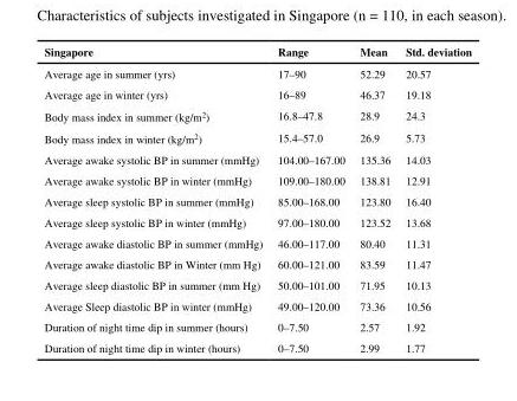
<table><thead><tr><td>Singapore</td><td>Range</td><td>Mean</td><td>Std. deviation</td></tr></thead><tbody><tr><td>Average age in summer (yrs)</td><td>17–90</td><td>52.29</td><td>20.57</td></tr><tr><td>Average age in winter (yrs)</td><td>16–89</td><td>46.37</td><td>19.18</td></tr><tr><td>Body mass index in summer (kg/m<sup>2</sup>)</td><td>16.8–47.8</td><td>28.9</td><td>24.3</td></tr><tr><td>Body mass index in winter (kg/m<sup>2</sup>)</td><td>15.4–57.0</td><td>26.9</td><td>5.73</td></tr><tr><td>Average awake systolic BP in summer (mmHg)</td><td>104.00–167.00</td><td>135.36</td><td>14.03</td></tr><tr><td>Average awake systolic BP in winter (mmHg)</td><td>109.00–180.00</td><td>138.81</td><td>12.91</td></tr><tr><td>Average sleep systolic BP in summer (mmHg)</td><td>85.00–168.00</td><td>123.80</td><td>16.40</td></tr><tr><td>Average sleep systolic BP in winter (mmHg)</td><td>97.00–180.00</td><td>123.52</td><td>13.68</td></tr><tr><td>Average awake diastolic BP in summer (mmHg)</td><td>46.00–117.00</td><td>80.40</td><td>11.31</td></tr><tr><td>Average awake diastolic BP in Winter (mm Hg)</td><td>60.00–121.00</td><td>83.59</td><td>11.47</td></tr><tr><td>Average sleep diastolic BP in summer (mm Hg)</td><td>50.00–101.00</td><td>71.95</td><td>10.13</td></tr><tr><td>Average Sleep diastolic BP in winter (mmHg)</td><td>49.00–120.00</td><td>73.36</td><td>10.56</td></tr><tr><td>Duration of night time dip in summer (hours)</td><td>0–7.50</td><td>2.57</td><td>1.92</td></tr><tr><td>Duration of night time dip in winter (hours)</td><td>0–7.50</td><td>2.99</td><td>1.77</td></tr></tbody></table>